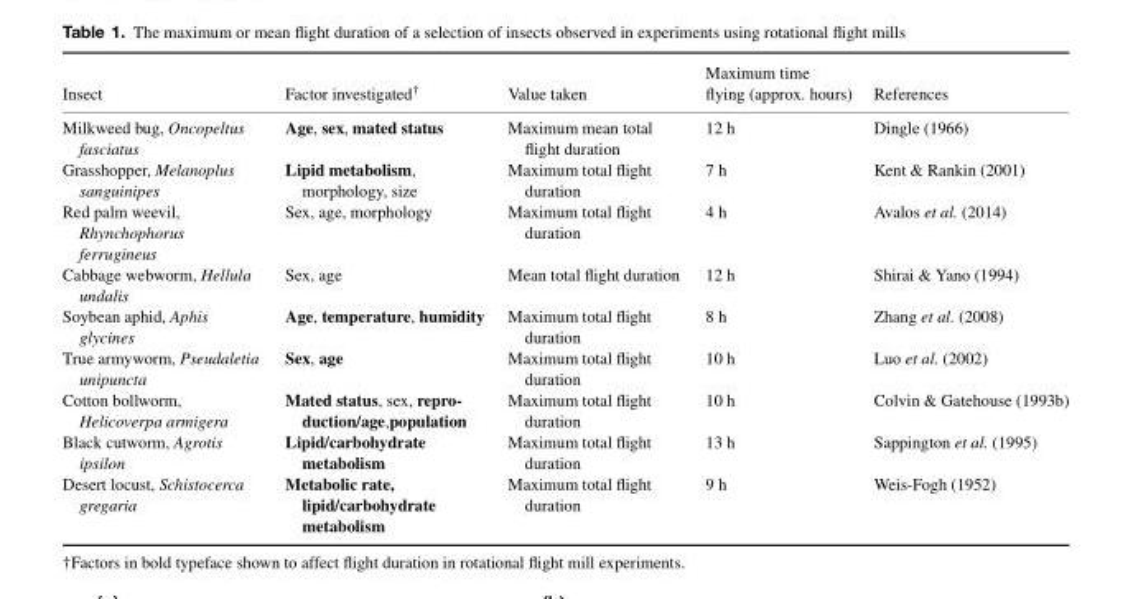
<table><thead><tr><td>Insect</td><td>Factor investigated†</td><td>Value taken</td><td>Maximum time flying (approx. hours)</td><td>References</td></tr></thead><tbody><tr><td>Milkweed bug, Oncopeltus fasciatus</td><td>Age, sex, mated status</td><td>Maximum mean total flight duration</td><td>12 h</td><td>Dingle (1966)</td></tr><tr><td>Grasshopper, Melanoplus sanguinipes</td><td>Lipid metabolism, morphology, size</td><td>Maximum total flight duration</td><td>7 h</td><td>Kent &amp; Rankin (2001)</td></tr><tr><td>Red palm weevil, Rhynchophorus ferrugineus</td><td>Sex, age, morphology</td><td>Maximum total flight duration</td><td>4 h</td><td>Avalos et al. (2014)</td></tr><tr><td>Cabbage webworm, Hellula undalis</td><td>Sex, age</td><td>Mean total flight duration</td><td>12 h</td><td>Shirai &amp; Yano (1994)</td></tr><tr><td>Soybean aphid, Aphis glycines</td><td>Age, temperature, humidity</td><td>Maximum total flight duration</td><td>8 h</td><td>Zhang et al. (2008)</td></tr><tr><td>True armyworm, Pseudaletia unipuncta</td><td>Sex, age</td><td>Maximum total flight duration</td><td>10 h</td><td>Luo et al. (2002)</td></tr><tr><td>Cotton bollworm, Helicoverpa armigera</td><td>Mated status, sex, repro- duction/age,population</td><td>Maximum total flight duration</td><td>10 h</td><td>Colvin &amp; Gatehouse (1993b)</td></tr><tr><td>Black cutworm, Agrotis ipsilon</td><td>Lipid/carbohydrate metabolism</td><td>Maximum total flight duration</td><td>13 h</td><td>Sappington et al. (1995)</td></tr><tr><td>Desert locust, Schistocerca gregaria</td><td>Metabolic rate, lipid/carbohydrate metabolism</td><td>Maximum total flight duration</td><td>9 h</td><td>Weis-Fogh (1952)</td></tr></tbody></table>